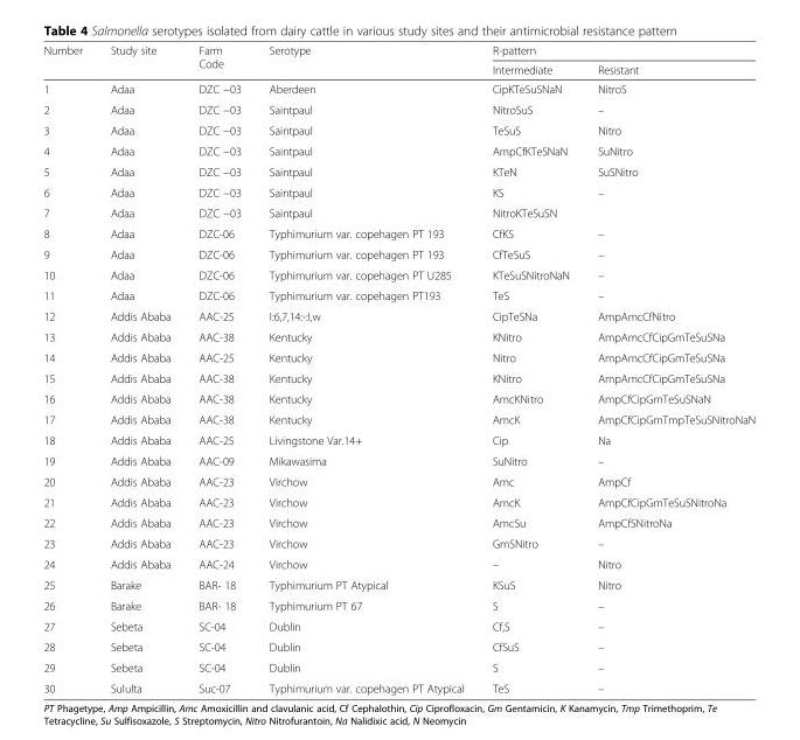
<table><thead><tr><td rowspan="2">Number</td><td rowspan="2">Study site</td><td rowspan="2">Farm Code</td><td rowspan="2">Serotype</td><td colspan="2">R-pattern</td></tr><tr><td>Intermediate</td><td>Resistant</td></tr></thead><tbody><tr><td>1</td><td>Adaa</td><td>DZC −03</td><td>Aberdeen</td><td>CipKTeSuSNaN</td><td>NitroS</td></tr><tr><td>2</td><td>Adaa</td><td>DZC −03</td><td>Saintpaul</td><td>NitroSuS</td><td>–</td></tr><tr><td>3</td><td>Adaa</td><td>DZC −03</td><td>Saintpaul</td><td>TeSuS</td><td>Nitro</td></tr><tr><td>4</td><td>Adaa</td><td>DZC −03</td><td>Saintpaul</td><td>AmpCfKTeSNaN</td><td>SuNitro</td></tr><tr><td>5</td><td>Adaa</td><td>DZC −03</td><td>Saintpaul</td><td>KTeN</td><td>SuSNitro</td></tr><tr><td>6</td><td>Adaa</td><td>DZC −03</td><td>Saintpaul</td><td>KS</td><td>–</td></tr><tr><td>7</td><td>Adaa</td><td>DZC −03</td><td>Saintpaul</td><td>NitroKTeSuSN</td><td></td></tr><tr><td>8</td><td>Adaa</td><td>DZC-06</td><td>Typhimurium var. copehagen PT 193</td><td>CfKS</td><td>–</td></tr><tr><td>9</td><td>Adaa</td><td>DZC-06</td><td>Typhimurium var. copehagen PT 193</td><td>CfTeSuS</td><td>–</td></tr><tr><td>10</td><td>Adaa</td><td>DZC-06</td><td>Typhimurium var. copehagen PT U285</td><td>KTeSuSNitroNaN</td><td>–</td></tr><tr><td>11</td><td>Adaa</td><td>DZC-06</td><td>Typhimurium var. copehagen PT193</td><td>TeS</td><td>–</td></tr><tr><td>12</td><td>Addis Ababa</td><td>AAC-25</td><td>I:6,7,14:-:I,w</td><td>CipTeSNa</td><td>AmpAmcCfNitro</td></tr><tr><td>13</td><td>Addis Ababa</td><td>AAC-38</td><td>Kentucky</td><td>KNitro</td><td>AmpAmcCfCipGmTeSuSNa</td></tr><tr><td>14</td><td>Addis Ababa</td><td>AAC-25</td><td>Kentucky</td><td>Nitro</td><td>AmpAmcCfCipGmTeSuSNa</td></tr><tr><td>15</td><td>Addis Ababa</td><td>AAC-38</td><td>Kentucky</td><td>KNitro</td><td>AmpAmcCfCipGmTeSuSNa</td></tr><tr><td>16</td><td>Addis Ababa</td><td>AAC-38</td><td>Kentucky</td><td>AmcKNitro</td><td>AmpCfCipGmTeSuSNaN</td></tr><tr><td>17</td><td>Addis Ababa</td><td>AAC-38</td><td>Kentucky</td><td>AmcK</td><td>AmpCfCipGmTmpTeSuSNitroNaN</td></tr><tr><td>18</td><td>Addis Ababa</td><td>AAC-25</td><td>Livingstone Var.14+</td><td>Cip</td><td>Na</td></tr><tr><td>19</td><td>Addis Ababa</td><td>AAC-09</td><td>Mikawasima</td><td>SuNitro</td><td>–</td></tr><tr><td>20</td><td>Addis Ababa</td><td>AAC-23</td><td>Virchow</td><td>Amc</td><td>AmpCf</td></tr><tr><td>21</td><td>Addis Ababa</td><td>AAC-23</td><td>Virchow</td><td>AmcK</td><td>AmpCfCipGmTeSuSNitroNa</td></tr><tr><td>22</td><td>Addis Ababa</td><td>AAC-23</td><td>Virchow</td><td>AmcSu</td><td>AmpCfSNitroNa</td></tr><tr><td>23</td><td>Addis Ababa</td><td>AAC-23</td><td>Virchow</td><td>GmSNitro</td><td>–</td></tr><tr><td>24</td><td>Addis Ababa</td><td>AAC-24</td><td>Virchow</td><td>–</td><td>Nitro</td></tr><tr><td>25</td><td>Barake</td><td>BAR- 18</td><td>Typhimurium PT Atypical</td><td>KSuS</td><td>Nitro</td></tr><tr><td>26</td><td>Barake</td><td>BAR- 18</td><td>Typhimurium PT 67</td><td>S</td><td>–</td></tr><tr><td>27</td><td>Sebeta</td><td>SC-04</td><td>Dublin</td><td>Cf,S</td><td>–</td></tr><tr><td>28</td><td>Sebeta</td><td>SC-04</td><td>Dublin</td><td>CfSuS</td><td>–</td></tr><tr><td>29</td><td>Sebeta</td><td>SC-04</td><td>Dublin</td><td>S</td><td>–</td></tr><tr><td>30</td><td>Sululta</td><td>Suc-07</td><td>Typhimurium var. copehagen PT Atypical</td><td>TeS</td><td>–</td></tr></tbody></table>